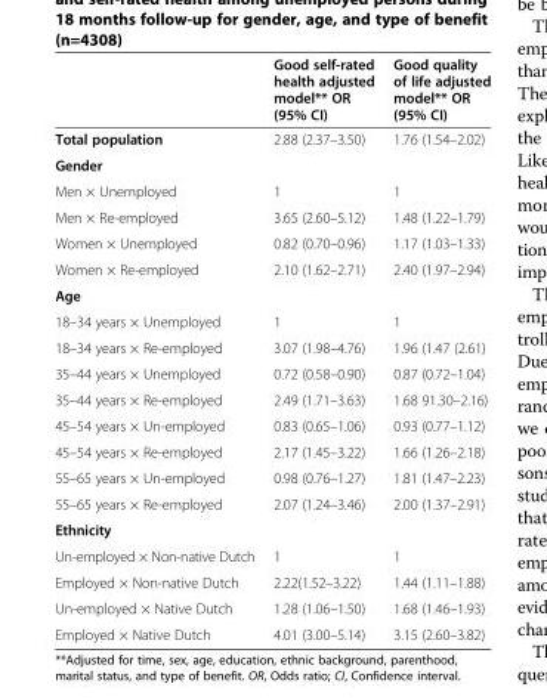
<table><thead><tr><td></td><td>Good self-rated health adjusted model** OR (95% CI)</td><td>Good quality of life adjusted model** OR (95% CI)</td></tr></thead><tbody><tr><td>Total population</td><td>2.88 (2.37–3.50)</td><td>1.76 (1.54–2.02)</td></tr><tr><td colspan="3">Gender</td></tr><tr><td>Men × Unemployed</td><td>1</td><td>1</td></tr><tr><td>Men × Re-employed</td><td>3.65 (2.60–5.12)</td><td>1.48 (1.22–1.79)</td></tr><tr><td>Women × Unemployed</td><td>0.82 (0.70–0.96)</td><td>1.17 (1.03–1.33)</td></tr><tr><td>Women × Re-employed</td><td>2.10 (1.62–2.71)</td><td>2.40 (1.97–2.94)</td></tr><tr><td colspan="3">Age</td></tr><tr><td>18–34 years × Unemployed</td><td>1</td><td>1</td></tr><tr><td>18–34 years × Re-employed</td><td>3.07 (1.98–4.76)</td><td>1.96 (1.47 (2.61)</td></tr><tr><td>35–44 years × Unemployed</td><td>0.72 (0.58–0.90)</td><td>0.87 (0.72–1.04)</td></tr><tr><td>35–44 years × Re-employed</td><td>2.49 (1.71–3.63)</td><td>1.68 91.30–2.16)</td></tr><tr><td>45–54 years × Un-employed</td><td>0.83 (0.65–1.06)</td><td>0.93 (0.77–1.12)</td></tr><tr><td>45–54 years × Re-employed</td><td>2.17 (1.45–3.22)</td><td>1.66 (1.26–2.18)</td></tr><tr><td>55–65 years × Un-employed</td><td>0.98 (0.76–1.27)</td><td>1.81 (1.47–2.23)</td></tr><tr><td>55–65 years × Re-employed</td><td>2.07 (1.24–3.46)</td><td>2.00 (1.37–2.91)</td></tr><tr><td colspan="3">Ethnicity</td></tr><tr><td>Un-employed × Non-native Dutch</td><td>1</td><td>1</td></tr><tr><td>Employed × Non-native Dutch</td><td>2.22(1.52–3.22)</td><td>1.44 (1.11–1.88)</td></tr><tr><td>Un-employed × Native Dutch</td><td>1.28 (1.06–1.50)</td><td>1.68 (1.46–1.93)</td></tr><tr><td>Employed × Native Dutch</td><td>4.01 (3.00–5.14)</td><td>3.15 (2.60–3.82)</td></tr></tbody></table>